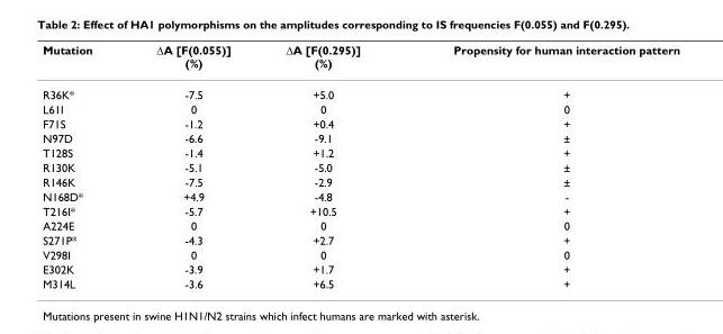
<table><thead><tr><td>Mutation</td><td>ΔA [F(0.055)] (%)</td><td>ΔA [F(0.295)] (%)</td><td>Propensity for human interaction pattern</td></tr></thead><tbody><tr><td>R36K*</td><td>-7.5</td><td>+5.0</td><td>+</td></tr><tr><td>L61I</td><td>0</td><td>0</td><td>0</td></tr><tr><td>F71S</td><td>-1.2</td><td>+0.4</td><td>+</td></tr><tr><td>N97D</td><td>-6.6</td><td>-9.1</td><td>±</td></tr><tr><td>T128S</td><td>-1.4</td><td>+1.2</td><td>+</td></tr><tr><td>R130K</td><td>-5.1</td><td>-5.0</td><td>±</td></tr><tr><td>R146K</td><td>-7.5</td><td>-2.9</td><td>±</td></tr><tr><td>N168D*</td><td>+4.9</td><td>-4.8</td><td>-</td></tr><tr><td>T216I*</td><td>-5.7</td><td>+10.5</td><td>+</td></tr><tr><td>A224E</td><td>0</td><td>0</td><td>0</td></tr><tr><td>S271P*</td><td>-4.3</td><td>+2.7</td><td>+</td></tr><tr><td>V298I</td><td>0</td><td>0</td><td>0</td></tr><tr><td>E302K</td><td>-3.9</td><td>+1.7</td><td>+</td></tr><tr><td>M314L</td><td>-3.6</td><td>+6.5</td><td>+</td></tr></tbody></table>